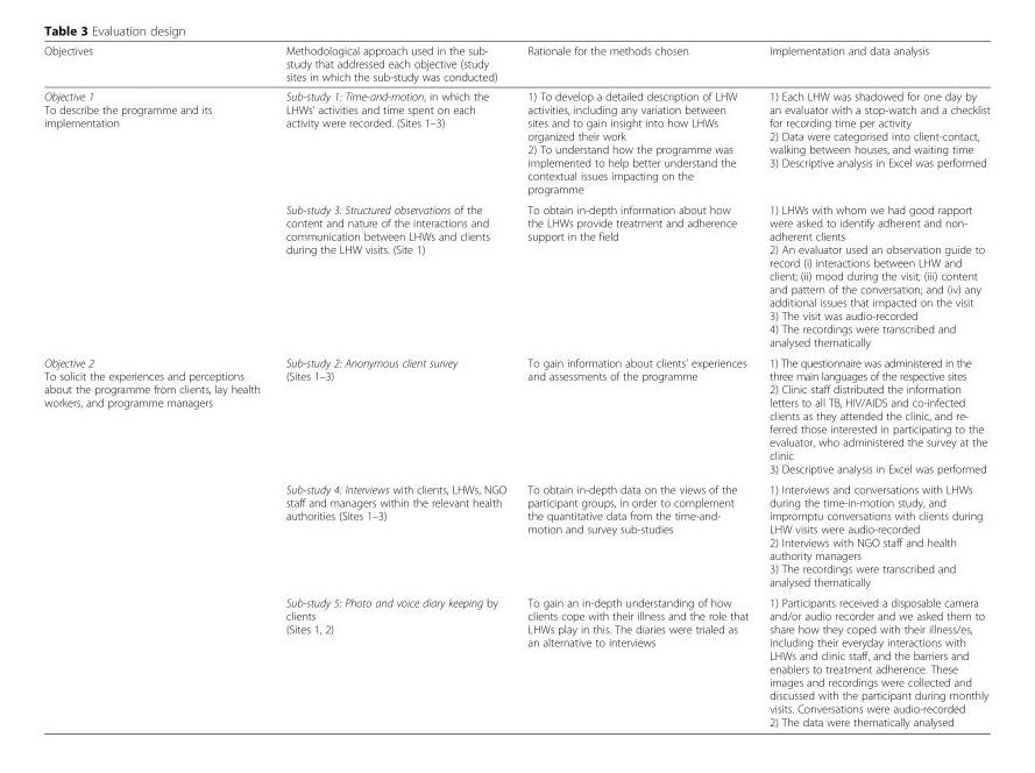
<table><thead><tr><td>Objectives</td><td>Methodological approach used in the sub- study that addressed each objective (study sites in which the sub-study was conducted)</td><td>Rationale for the methods chosen</td><td>Implementation and data analysis</td></tr></thead><tbody><tr><td rowspan="2">Objective 1 To describe the programme and its implementation</td><td>Sub-study 1: Time-and-motion, in which the LHWs’ activities and time spent on each activity were recorded. (Sites 1–3)</td><td>1) To develop a detailed description of LHW activities, including any variation between sites and to gain insight into how LHWs organized their work 2) To understand how the programme was implemented to help better understand the contextual issues impacting on the programme</td><td>1) Each LHW was shadowed for one day by an evaluator with a stop-watch and a checklist for recording time per activity 2) Data were categorised into client-contact, walking between houses, and waiting time 3) Descriptive analysis in Excel was performed</td></tr><tr><td>Sub-study 3: Structured observations of the content and nature of the interactions and communication between LHWs and clients during the LHW visits. (Site 1)</td><td>To obtain in-depth information about how the LHWs provide treatment and adherence support in the field</td><td>1) LHWs with whom we had good rapport were asked to identify adherent and non- adherent clients 2) An evaluator used an observation guide to record (i) interactions between LHW and client; (ii) mood during the visit; (iii) content and pattern of the conversation; and (iv) any additional issues that impacted on the visit 3) The visit was audio-recorded 4) The recordings were transcribed and analysed thematically</td></tr><tr><td rowspan="3">Objective 2 To solicit the experiences and perceptions about the programme from clients, lay health workers, and programme managers</td><td>Sub-study 2: Anonymous client survey (Sites 1–3)</td><td>To gain information about clients’ experiences and assessments of the programme</td><td>1) The questionnaire was administered in the three main languages of the respective sites 2) Clinic staff distributed the information letters to all TB, HIV/AIDS and co-infected clients as they attended the clinic, and re- ferred those interested in participating to the evaluator, who administered the survey at the clinic 3) Descriptive analysis in Excel was performed</td></tr><tr><td>Sub-study 4: Interviews with clients, LHWs, NGO staff and managers within the relevant health authorities (Sites 1–3)</td><td>To obtain in-depth data on the views of the participant groups, in order to complement the quantitative data from the time-and- motion and survey sub-studies</td><td>1) Interviews and conversations with LHWs during the time-in-motion study, and impromptu conversations with clients during LHW visits were audio-recorded 2) Interviews with NGO staff and health authority managers 3) The recordings were transcribed and analysed thematically</td></tr><tr><td>Sub-study 5: Photo and voice diary keeping by clients (Sites 1, 2)</td><td>To gain an in-depth understanding of how clients cope with their illness and the role that LHWs play in this. The diaries were trialed as an alternative to interviews</td><td>1) Participants received a disposable camera and/or audio recorder and we asked them to share how they coped with their illness/es, including their everyday interactions with LHWs and clinic staff, and the barriers and enablers to treatment adherence. These images and recordings were collected and discussed with the participant during monthly visits. Conversations were audio-recorded 2) The data were thematically analysed</td></tr></tbody></table>